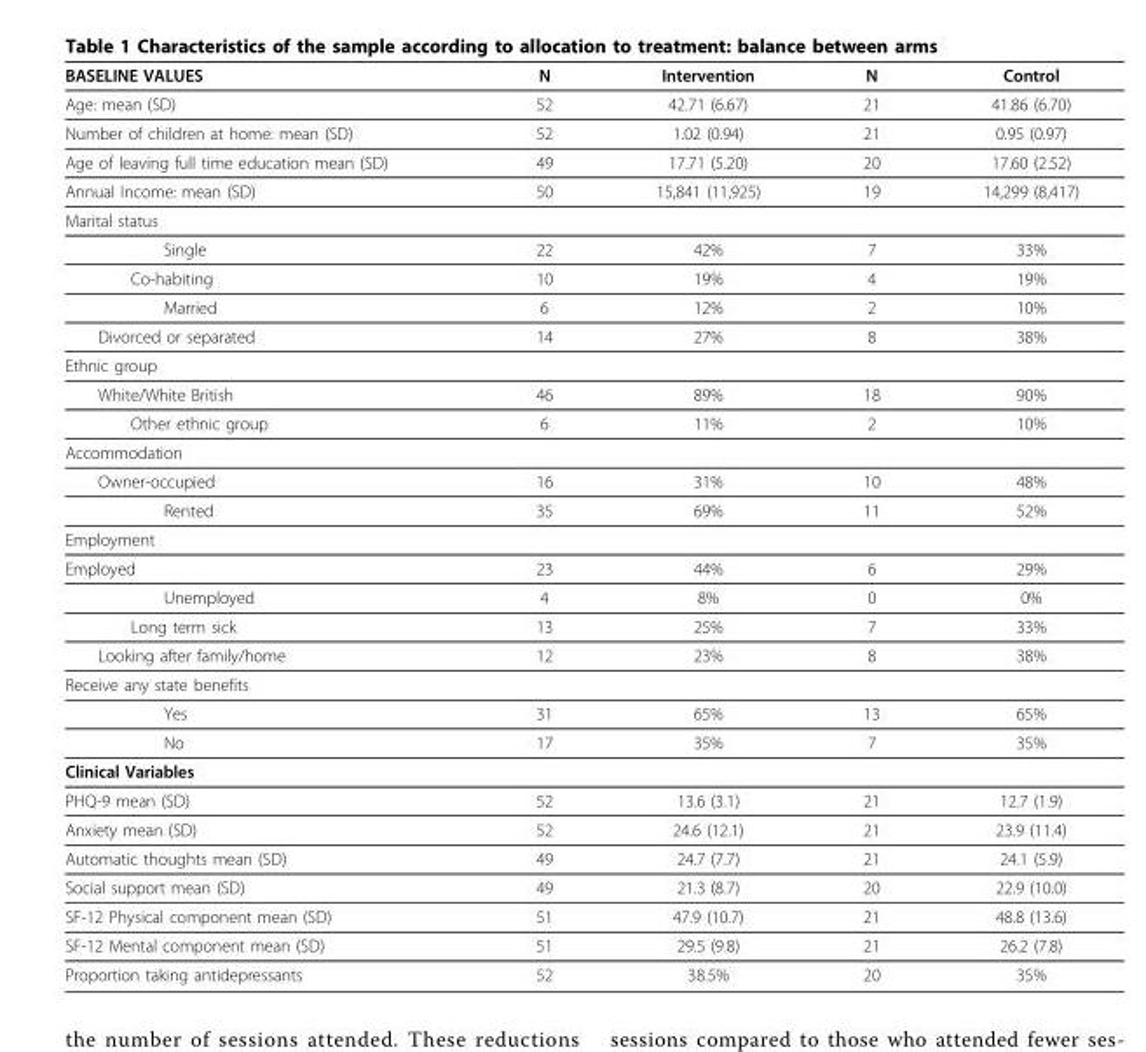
<table><thead><tr><td>BASELINE VALUES</td><td>N</td><td>Intervention</td><td>N</td><td>Control</td></tr></thead><tbody><tr><td>Age: mean (SD)</td><td>52</td><td>42.71 (6.67)</td><td>21</td><td>41.86 (6.70)</td></tr><tr><td>Number of children at home: mean (SD)</td><td>52</td><td>1.02 (0.94)</td><td>21</td><td>0.95 (0.97)</td></tr><tr><td>Age of leaving full time education mean (SD)</td><td>49</td><td>17.71 (5.20)</td><td>20</td><td>17.60 (2.52)</td></tr><tr><td>Annual Income: mean (SD)</td><td>50</td><td>15,841 (11,925)</td><td>19</td><td>14,299 (8,417)</td></tr><tr><td colspan="5">Marital status</td></tr><tr><td>Single</td><td>22</td><td>42%</td><td>7</td><td>33%</td></tr><tr><td>Co-habiting</td><td>10</td><td>19%</td><td>4</td><td>19%</td></tr><tr><td>Married</td><td>6</td><td>12%</td><td>2</td><td>10%</td></tr><tr><td>Divorced or separated</td><td>14</td><td>27%</td><td>8</td><td>38%</td></tr><tr><td colspan="5">Ethnic group</td></tr><tr><td>White/White British</td><td>46</td><td>89%</td><td>18</td><td>90%</td></tr><tr><td>Other ethnic group</td><td>6</td><td>11%</td><td>2</td><td>10%</td></tr><tr><td colspan="5">Accommodation</td></tr><tr><td>Owner-occupied</td><td>16</td><td>31%</td><td>10</td><td>48%</td></tr><tr><td>Rented</td><td>35</td><td>69%</td><td>11</td><td>52%</td></tr><tr><td colspan="5">Employment</td></tr><tr><td>Employed</td><td>23</td><td>44%</td><td>6</td><td>29%</td></tr><tr><td>Unemployed</td><td>4</td><td>8%</td><td>0</td><td>0%</td></tr><tr><td>Long term sick</td><td>13</td><td>25%</td><td>7</td><td>33%</td></tr><tr><td>Looking after family/home</td><td>12</td><td>23%</td><td>8</td><td>38%</td></tr><tr><td colspan="5">Receive any state benefits</td></tr><tr><td>Yes</td><td>31</td><td>65%</td><td>13</td><td>65%</td></tr><tr><td>No</td><td>17</td><td>35%</td><td>7</td><td>35%</td></tr><tr><td colspan="5">Clinical Variables</td></tr><tr><td>PHQ-9 mean (SD)</td><td>52</td><td>13.6 (3.1)</td><td>21</td><td>12.7 (1.9)</td></tr><tr><td>Anxiety mean (SD)</td><td>52</td><td>24.6 (12.1)</td><td>21</td><td>23.9 (11.4)</td></tr><tr><td>Automatic thoughts mean (SD)</td><td>49</td><td>24.7 (7.7)</td><td>21</td><td>24.1 (5.9)</td></tr><tr><td>Social support mean (SD)</td><td>49</td><td>21.3 (8.7)</td><td>20</td><td>22.9 (10.0)</td></tr><tr><td>SF-12 Physical component mean (SD)</td><td>51</td><td>47.9 (10.7)</td><td>21</td><td>48.8 (13.6)</td></tr><tr><td>SF-12 Mental component mean (SD)</td><td>51</td><td>29.5 (9.8)</td><td>21</td><td>26.2 (7.8)</td></tr><tr><td>Proportion taking antidepressants</td><td>52</td><td>38.5%</td><td>20</td><td>35%</td></tr></tbody></table>